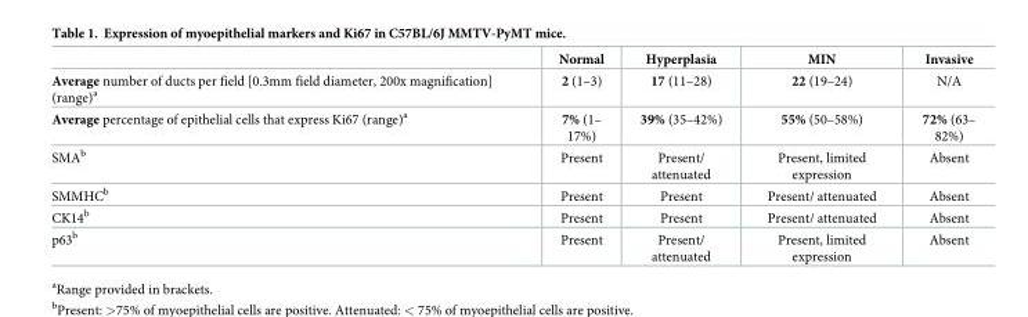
<table><thead><tr><td></td><td>Normal</td><td>Hyperplasia</td><td>MIN</td><td>Invasive</td></tr></thead><tbody><tr><td>Average number of ducts per field [0.3mm field diameter, 200x magnification] (range)<sup>a</sup></td><td>2 (1–3)</td><td>17 (11–28)</td><td>22 (19–24)</td><td>N/A</td></tr><tr><td>Average percentage of epithelial cells that express Ki67 (range)<sup>a</sup></td><td>7% (1– 17%)</td><td>39% (35–42%)</td><td>55% (50–58%)</td><td>72% (63– 82%)</td></tr><tr><td>SMA<sup>b</sup></td><td>Present</td><td>Present/ attenuated</td><td>Present, limited expression</td><td>Absent</td></tr><tr><td>SMMHC<sup>b</sup></td><td>Present</td><td>Present</td><td>Present/ attenuated</td><td>Absent</td></tr><tr><td>CK14<sup>b</sup></td><td>Present</td><td>Present</td><td>Present/ attenuated</td><td>Absent</td></tr><tr><td>p63<sup>b</sup></td><td>Present</td><td>Present/ attenuated</td><td>Present, limited expression</td><td>Absent</td></tr></tbody></table>